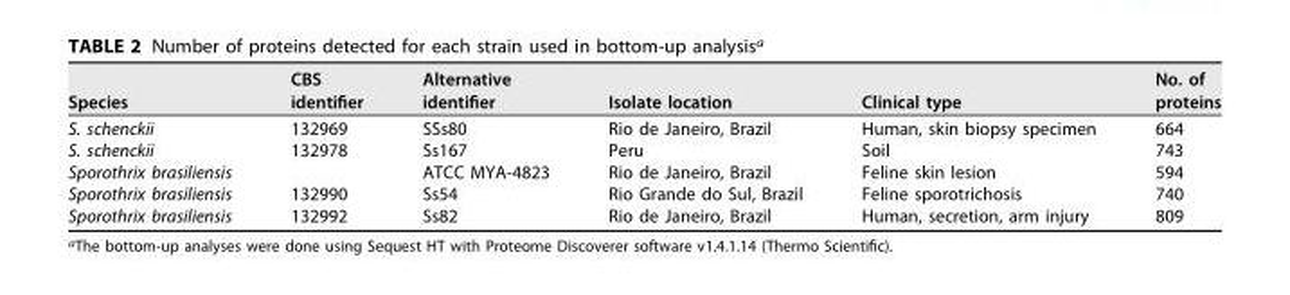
<table><thead><tr><td>Species</td><td>CBS identifier</td><td>Alternative identifier</td><td>Isolate location</td><td>Clinical type</td><td>No. of proteins</td></tr></thead><tbody><tr><td>S. schenckii</td><td>132969</td><td>SSs80</td><td>Rio de Janeiro, Brazil</td><td>Human, skin biopsy specimen</td><td>664</td></tr><tr><td>S. schenckii</td><td>132978</td><td>Ss167</td><td>Peru</td><td>Soil</td><td>743</td></tr><tr><td>Sporothrix brasiliensis</td><td></td><td>ATCC MYA-4823</td><td>Rio de Janeiro, Brazil</td><td>Feline skin lesion</td><td>594</td></tr><tr><td>Sporothrix brasiliensis</td><td>132990</td><td>Ss54</td><td>Rio Grande do Sul, Brazil</td><td>Feline sporotrichosis</td><td>740</td></tr><tr><td>Sporothrix brasiliensis</td><td>132992</td><td>Ss82</td><td>Rio de Janeiro, Brazil</td><td>Human, secretion, arm injury</td><td>809</td></tr></tbody></table>